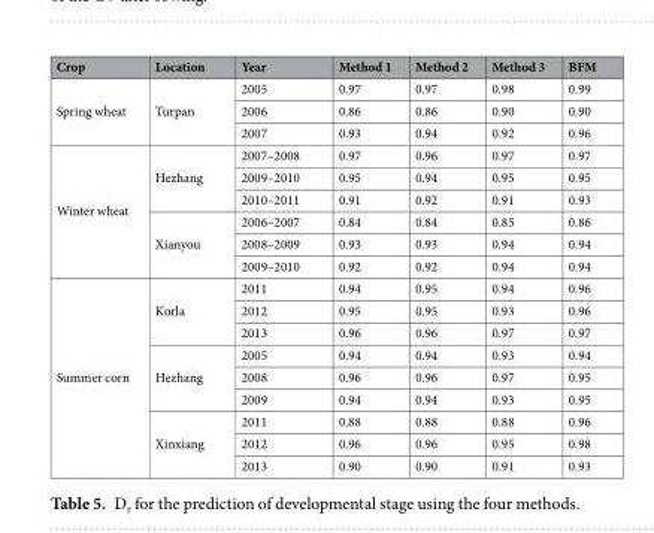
<table><thead><tr><td>Crop</td><td>Location</td><td>Year</td><td>Method 1</td><td>Method 2</td><td>Method 3</td><td>BFM</td></tr></thead><tbody><tr><td rowspan="3">Spring wheat</td><td rowspan="3">Turpan</td><td>2005</td><td>0.97</td><td>0.97</td><td>0.98</td><td>0.99</td></tr><tr><td>2006</td><td>0.86</td><td>0.86</td><td>0.90</td><td>0.90</td></tr><tr><td>2007</td><td>0.93</td><td>0.94</td><td>0.92</td><td>0.96</td></tr><tr><td rowspan="6">Winter wheat</td><td rowspan="3">Hezhang</td><td>2007–2008</td><td>0.97</td><td>0.96</td><td>0.97</td><td>0.97</td></tr><tr><td>2009–2010</td><td>0.95</td><td>0.94</td><td>0.95</td><td>0.95</td></tr><tr><td>2010–2011</td><td>0.91</td><td>0.92</td><td>0.91</td><td>0.93</td></tr><tr><td rowspan="3">Xianyou</td><td>2006–2007</td><td>0.84</td><td>0.84</td><td>0.85</td><td>0.86</td></tr><tr><td>2008–2009</td><td>0.93</td><td>0.93</td><td>0.94</td><td>0.94</td></tr><tr><td>2009–2010</td><td>0.92</td><td>0.92</td><td>0.94</td><td>0.94</td></tr><tr><td rowspan="9">Summer corn</td><td rowspan="3">Korla</td><td>2011</td><td>0.94</td><td>0.95</td><td>0.94</td><td>0.96</td></tr><tr><td>2012</td><td>0.95</td><td>0.95</td><td>0.93</td><td>0.96</td></tr><tr><td>2013</td><td>0.96</td><td>0.96</td><td>0.97</td><td>0.97</td></tr><tr><td rowspan="3">Hezhang</td><td>2005</td><td>0.94</td><td>0.94</td><td>0.93</td><td>0.94</td></tr><tr><td>2008</td><td>0.96</td><td>0.96</td><td>0.97</td><td>0.95</td></tr><tr><td>2009</td><td>0.94</td><td>0.94</td><td>0.93</td><td>0.95</td></tr><tr><td rowspan="3">Xinxiang</td><td>2011</td><td>0.88</td><td>0.88</td><td>0.88</td><td>0.96</td></tr><tr><td>2012</td><td>0.96</td><td>0.96</td><td>0.95</td><td>0.98</td></tr><tr><td>2013</td><td>0.90</td><td>0.90</td><td>0.91</td><td>0.93</td></tr></tbody></table>